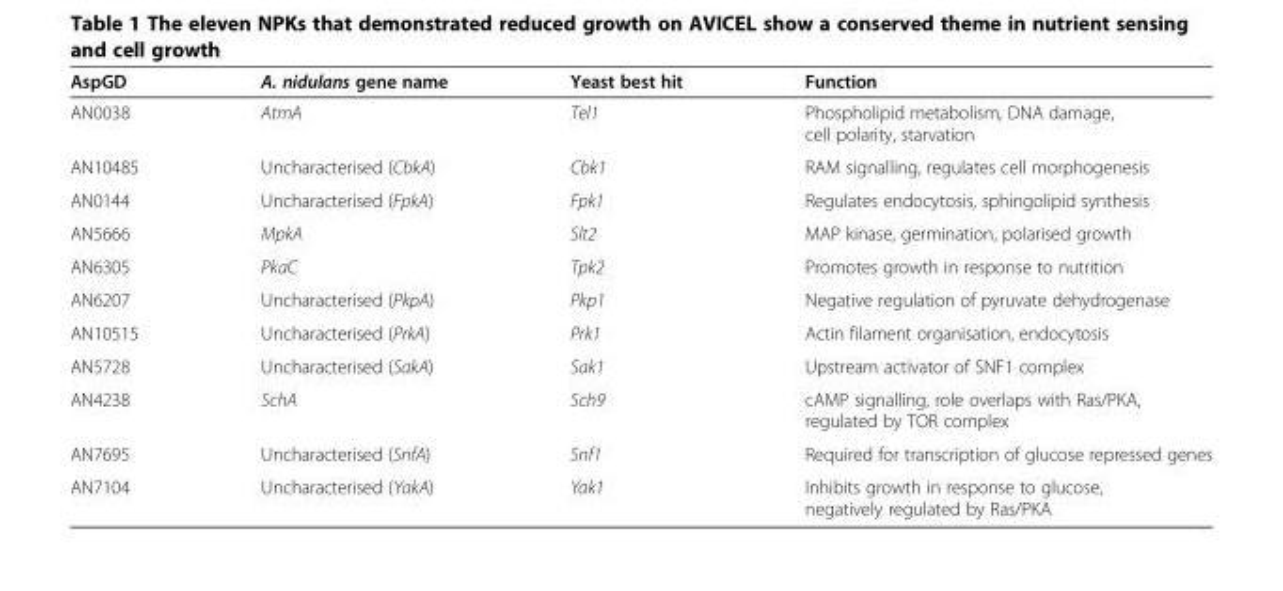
<table><thead><tr><td>AspGD</td><td>A. nidulans gene name</td><td>Yeast best hit</td><td>Function</td></tr></thead><tbody><tr><td>AN0038</td><td>AtmA</td><td>Tel1</td><td>Phospholipid metabolism, DNA damage, cell polarity, starvation</td></tr><tr><td>AN10485</td><td>Uncharacterised (CbkA)</td><td>Cbk1</td><td>RAM signalling, regulates cell morphogenesis</td></tr><tr><td>AN0144</td><td>Uncharacterised (FpkA)</td><td>Fpk1</td><td>Regulates endocytosis, sphingolipid synthesis</td></tr><tr><td>AN5666</td><td>MpkA</td><td>Slt2</td><td>MAP kinase, germination, polarised growth</td></tr><tr><td>AN6305</td><td>PkaC</td><td>Tpk2</td><td>Promotes growth in response to nutrition</td></tr><tr><td>AN6207</td><td>Uncharacterised (PkpA)</td><td>Pkp1</td><td>Negative regulation of pyruvate dehydrogenase</td></tr><tr><td>AN10515</td><td>Uncharacterised (PrkA)</td><td>Prk1</td><td>Actin filament organisation, endocytosis</td></tr><tr><td>AN5728</td><td>Uncharacterised (SakA)</td><td>Sak1</td><td>Upstream activator of SNF1 complex</td></tr><tr><td>AN4238</td><td>SchA</td><td>Sch9</td><td>cAMP signalling, role overlaps with Ras/PKA, regulated by TOR complex</td></tr><tr><td>AN7695</td><td>Uncharacterised (SnfA)</td><td>Snf1</td><td>Required for transcription of glucose repressed genes</td></tr><tr><td>AN7104</td><td>Uncharacterised (YakA)</td><td>Yak1</td><td>Inhibits growth in response to glucose, negatively regulated by Ras/PKA</td></tr></tbody></table>